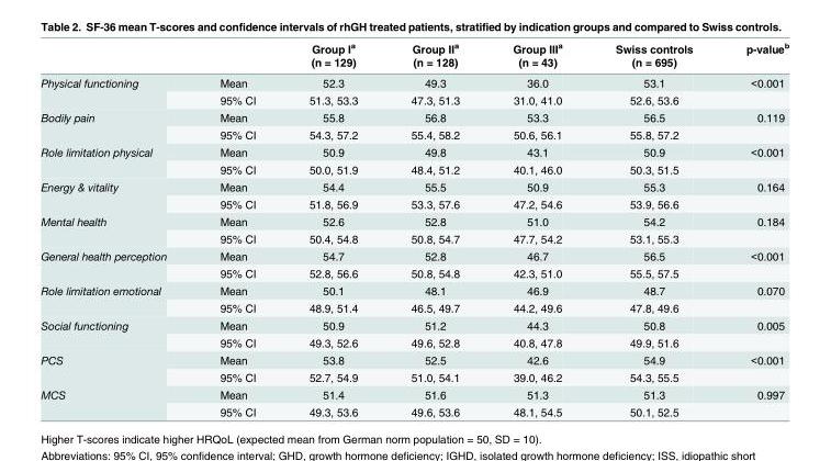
<table><thead><tr><td rowspan="2"></td><td rowspan="2"></td><td rowspan="2">Group I<sup>a</sup> (n = 129)</td><td rowspan="2">Group II<sup>a</sup> (n = 128)</td><td rowspan="2">Group III<sup>a</sup> (n = 43)</td><td rowspan="2">Swiss controls (n = 695)</td><td rowspan="2">p-value<sup>b</sup></td></tr><tr></tr></thead><tbody><tr><td rowspan="2">Physical functioning</td><td>Mean</td><td>52.3</td><td>49.3</td><td>36.0</td><td>53.1</td><td>&lt;0.001</td></tr><tr><td>95% CI</td><td>51.3, 53.3</td><td>47.3, 51.3</td><td>31.0, 41.0</td><td>52.6, 53.6</td><td></td></tr><tr><td rowspan="2">Bodily pain</td><td>Mean</td><td>55.8</td><td>56.8</td><td>53.3</td><td>56.5</td><td>0.119</td></tr><tr><td>95% CI</td><td>54.3, 57.2</td><td>55.4, 58.2</td><td>50.6, 56.1</td><td>55.8, 57.2</td><td></td></tr><tr><td rowspan="2">Role limitation physical</td><td>Mean</td><td>50.9</td><td>49.8</td><td>43.1</td><td>50.9</td><td>&lt;0.001</td></tr><tr><td>95% CI</td><td>50.0, 51.9</td><td>48.4, 51.2</td><td>40.1, 46.0</td><td>50.3, 51.5</td><td></td></tr><tr><td rowspan="2">Energy &amp; vitality</td><td>Mean</td><td>54.4</td><td>55.5</td><td>50.9</td><td>55.3</td><td>0.164</td></tr><tr><td>95% CI</td><td>51.8, 56.9</td><td>53.3, 57.6</td><td>47.2, 54.6</td><td>53.9, 56.6</td><td></td></tr><tr><td rowspan="2">Mental health</td><td>Mean</td><td>52.6</td><td>52.8</td><td>51.0</td><td>54.2</td><td>0.184</td></tr><tr><td>95% CI</td><td>50.4, 54.8</td><td>50.8, 54.7</td><td>47.7, 54.2</td><td>53.1, 55.3</td><td></td></tr><tr><td rowspan="2">General health perception</td><td>Mean</td><td>54.7</td><td>52.8</td><td>46.7</td><td>56.5</td><td>&lt;0.001</td></tr><tr><td>95% CI</td><td>52.8, 56.6</td><td>50.8, 54.8</td><td>42.3, 51.0</td><td>55.5, 57.5</td><td></td></tr><tr><td rowspan="2">Role limitation emotional</td><td>Mean</td><td>50.1</td><td>48.1</td><td>46.9</td><td>48.7</td><td>0.070</td></tr><tr><td>95% CI</td><td>48.9, 51.4</td><td>46.5, 49.7</td><td>44.2, 49.6</td><td>47.8, 49.6</td><td></td></tr><tr><td rowspan="2">Social functioning</td><td>Mean</td><td>50.9</td><td>51.2</td><td>44.3</td><td>50.8</td><td>0.005</td></tr><tr><td>95% CI</td><td>49.3, 52.6</td><td>49.6, 52.8</td><td>40.8, 47.8</td><td>49.9, 51.6</td><td></td></tr><tr><td rowspan="2">PCS</td><td>Mean</td><td>53.8</td><td>52.5</td><td>42.6</td><td>54.9</td><td>&lt;0.001</td></tr><tr><td>95% CI</td><td>52.7, 54.9</td><td>51.0, 54.1</td><td>39.0, 46.2</td><td>54.3, 55.5</td><td></td></tr><tr><td rowspan="2">MCS</td><td>Mean</td><td>51.4</td><td>51.6</td><td>51.3</td><td>51.3</td><td>0.997</td></tr><tr><td>95% CI</td><td>49.3, 53.6</td><td>49.6, 53.6</td><td>48.1, 54.5</td><td>50.1, 52.5</td><td></td></tr></tbody></table>